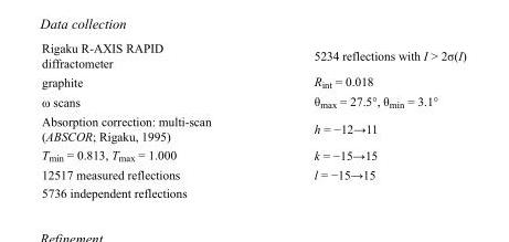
<table><tbody><tr><td>Rigaku R-AXIS RAPID diffractometer</td><td>5234 reflections with I &gt; 2σ(I)</td></tr><tr><td>graphite</td><td>R<sub>int</sub> = 0.018</td></tr><tr><td>ω scans</td><td>θ<sub>max</sub> = 27.5°, θ<sub>min</sub> = 3.1°</td></tr><tr><td>Absorption correction: multi-scan (ABSCOR; Rigaku, 1995)</td><td>h = −12→11</td></tr><tr><td>T<sub>min</sub> = 0.813, T<sub>max</sub> = 1.000</td><td>k = −15→15</td></tr><tr><td>12517 measured reflections</td><td>l = −15→15</td></tr><tr><td>5736 independent reflections</td><td></td></tr></tbody></table>